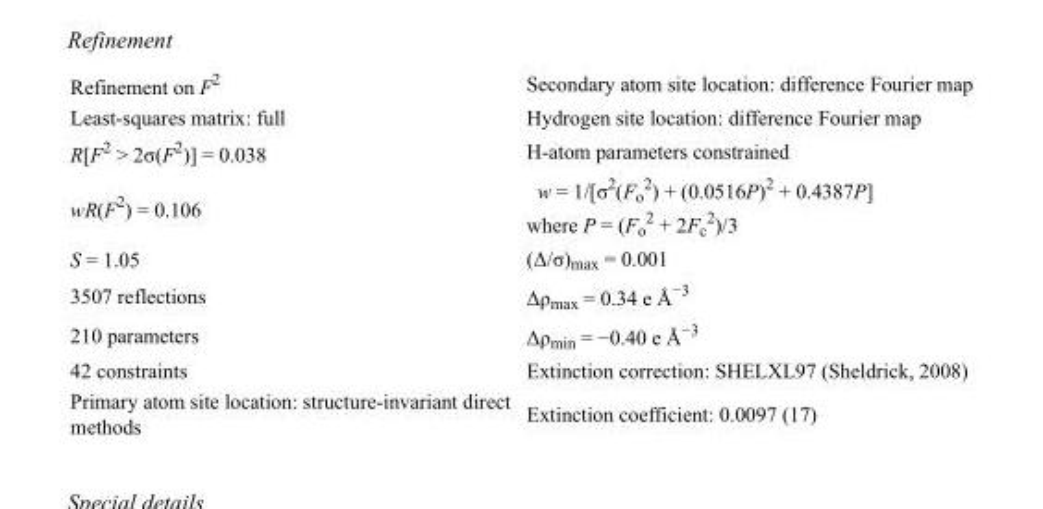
<table><tbody><tr><td>Refinement on F<sup>2</sup></td><td>Secondary atom site location: difference Fourier map</td></tr><tr><td>Least-squares matrix: full</td><td>Hydrogen site location: difference Fourier map</td></tr><tr><td>R[F<sup>2</sup> &gt; 2σ(F<sup>2</sup>)] = 0.038</td><td>H-atom parameters constrained</td></tr><tr><td>wR(F<sup>2</sup>) = 0.106</td><td>w = 1/[σ<sup>2</sup>(F<sub>o</sub> <sup>2</sup>) + (0.0516P)<sup>2</sup> + 0.4387P] where P = (F<sub>o</sub> <sup>2</sup> + 2F<sub>c</sub> <sup>2</sup>)/3</td></tr><tr><td>S = 1.05</td><td>(Δ/σ)<sub>max</sub> = 0.001</td></tr><tr><td>3507 reflections</td><td>Δρ<sub>max</sub> = 0.34 e Å<sup>−3</sup></td></tr><tr><td>210 parameters</td><td>Δρ<sub>min</sub> = −0.40 e Å<sup>−3</sup></td></tr><tr><td>42 constraints</td><td>Extinction correction: SHELXL97 (Sheldrick, 2008)</td></tr><tr><td>Primary atom site location: structure-invariant direct methods</td><td>Extinction coefficient: 0.0097 (17)</td></tr></tbody></table>